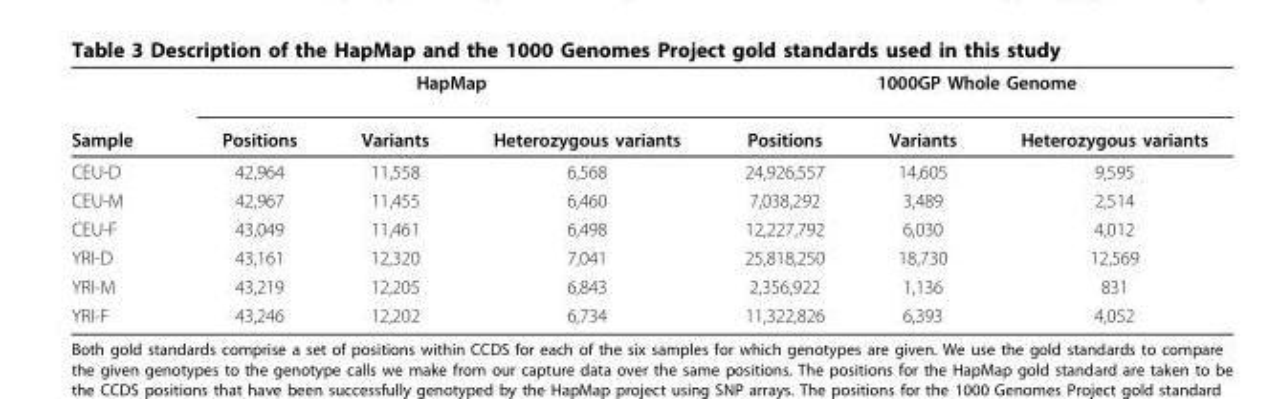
<table><thead><tr><td rowspan="2">Sample</td><td colspan="3">HapMap</td><td colspan="3">1000GP Whole Genome</td></tr><tr><td>Positions</td><td>Variants</td><td>Heterozygous variants</td><td>Positions</td><td>Variants</td><td>Heterozygous variants</td></tr></thead><tbody><tr><td>CEU-D</td><td>42,964</td><td>11,558</td><td>6,568</td><td>24,926,557</td><td>14,605</td><td>9,595</td></tr><tr><td>CEU-M</td><td>42,967</td><td>11,455</td><td>6,460</td><td>7,038,292</td><td>3,489</td><td>2,514</td></tr><tr><td>CEU-F</td><td>43,049</td><td>11,461</td><td>6,498</td><td>12,227,792</td><td>6,030</td><td>4,012</td></tr><tr><td>YRI-D</td><td>43,161</td><td>12,320</td><td>7,041</td><td>25,818,250</td><td>18,730</td><td>12,569</td></tr><tr><td>YRI-M</td><td>43,219</td><td>12,205</td><td>6,843</td><td>2,356,922</td><td>1,136</td><td>831</td></tr><tr><td>YRI-F</td><td>43,246</td><td>12,202</td><td>6,734</td><td>11,322,826</td><td>6,393</td><td>4,052</td></tr></tbody></table>